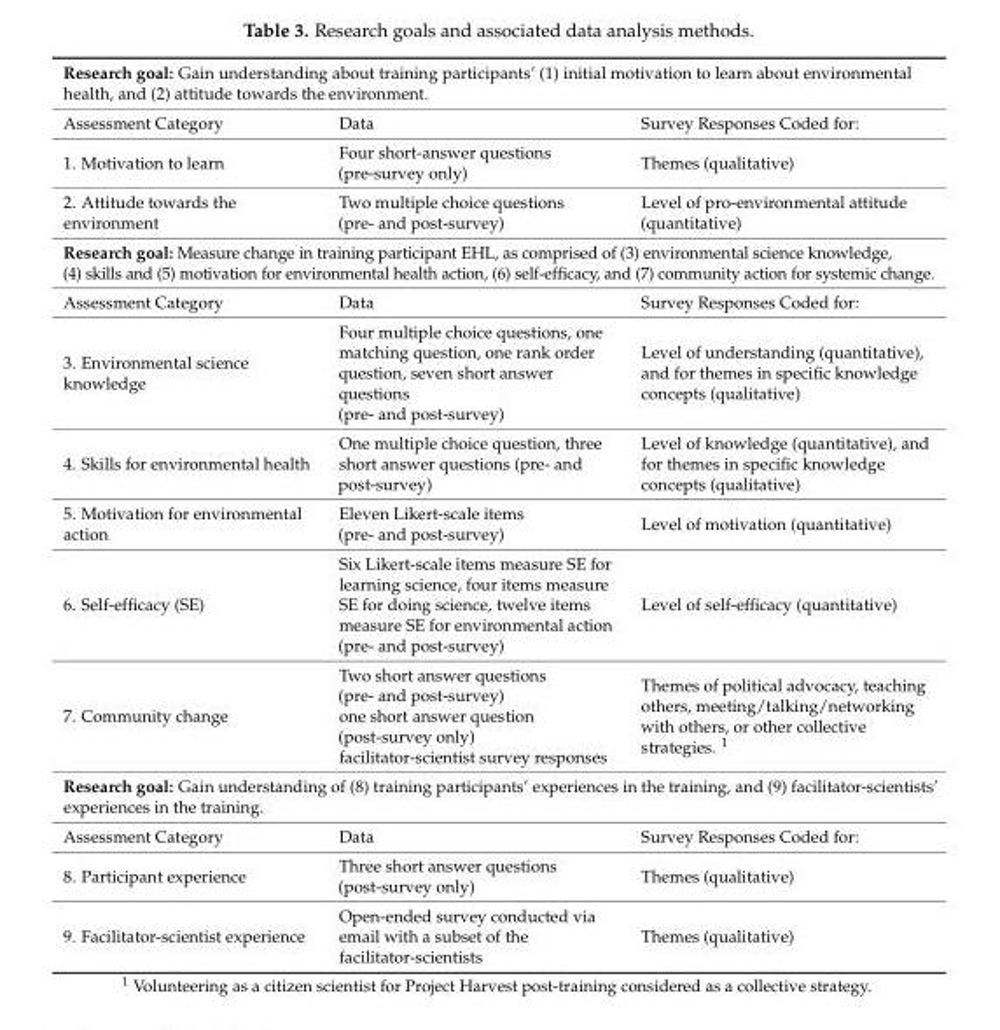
<table><tbody><tr><td colspan="3">Research goal: Gain understanding about training participants’ (1) initial motivation to learn about environmental health, and (2) attitude towards the environment.</td></tr><tr><td>Assessment Category</td><td>Data</td><td>Survey Responses Coded for:</td></tr><tr><td>1. Motivation to learn</td><td>Four short-answer questions (pre-survey only)</td><td>Themes (qualitative)</td></tr><tr><td>2. Attitude towards the environment</td><td>Two multiple choice questions (pre- and post-survey)</td><td>Level of pro-environmental attitude (quantitative)</td></tr><tr><td colspan="3">Research goal: Measure change in training participant EHL, as comprised of (3) environmental science knowledge, (4) skills and (5) motivation for environmental health action, (6) self-efficacy, and (7) community action for systemic change.</td></tr><tr><td>Assessment Category</td><td>Data</td><td>Survey Responses Coded for:</td></tr><tr><td>3. Environmental science knowledge</td><td>Four multiple choice questions, one matching question, one rank order question, seven short answer questions (pre- and post-survey)</td><td>Level of understanding (quantitative), and for themes in specific knowledge concepts (qualitative)</td></tr><tr><td>4. Skills for environmental health</td><td>One multiple choice question, three short answer questions (pre- and post-survey)</td><td>Level of knowledge (quantitative), and for themes in specific knowledge concepts (qualitative)</td></tr><tr><td>5. Motivation for environmental action</td><td>Eleven Likert-scale items (pre- and post-survey)</td><td>Level of motivation (quantitative)</td></tr><tr><td>6. Self-efficacy (SE)</td><td>Six Likert-scale items measure SE for learning science, four items measure SE for doing science, twelve items measure SE for environmental action (pre- and post-survey)</td><td>Level of self-efficacy (quantitative)</td></tr><tr><td>7. Community change</td><td>Two short answer questions (pre- and post-survey) one short answer question (post-survey only) facilitator-scientist survey responses</td><td>Themes of political advocacy, teaching others, meeting/talking/networking with others, or other collective strategies. <sup>1</sup></td></tr><tr><td colspan="3">Research goal: Gain understanding of (8) training participants’ experiences in the training, and (9) facilitator-scientists’ experiences in the training.</td></tr><tr><td>Assessment Category</td><td>Data</td><td>Survey Responses Coded for:</td></tr><tr><td>8. Participant experience</td><td>Three short answer questions (post-survey only)</td><td>Themes (qualitative)</td></tr><tr><td>9. Facilitator-scientist experience</td><td>Open-ended survey conducted via email with a subset of the facilitator-scientists</td><td>Themes (qualitative)</td></tr></tbody></table>